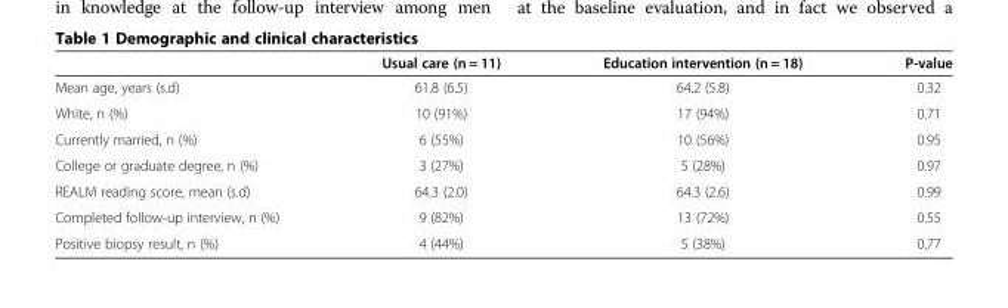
<table><thead><tr><td></td><td>Usual care (n = 11)</td><td>Education intervention (n = 18)</td><td>P-value</td></tr></thead><tbody><tr><td>Mean age, years (s.d)</td><td>61.8 (6.5)</td><td>64.2 (5.8)</td><td>0.32</td></tr><tr><td>White, n (%)</td><td>10 (91%)</td><td>17 (94%)</td><td>0.71</td></tr><tr><td>Currently married, n (%)</td><td>6 (55%)</td><td>10 (56%)</td><td>0.95</td></tr><tr><td>College or graduate degree, n (%)</td><td>3 (27%)</td><td>5 (28%)</td><td>0.97</td></tr><tr><td>REALM reading score, mean (s.d)</td><td>64.3 (2.0)</td><td>64.3 (2.6)</td><td>0.99</td></tr><tr><td>Completed follow-up interview, n (%)</td><td>9 (82%)</td><td>13 (72%)</td><td>0.55</td></tr><tr><td>Positive biopsy result, n (%)</td><td>4 (44%)</td><td>5 (38%)</td><td>0.77</td></tr></tbody></table>